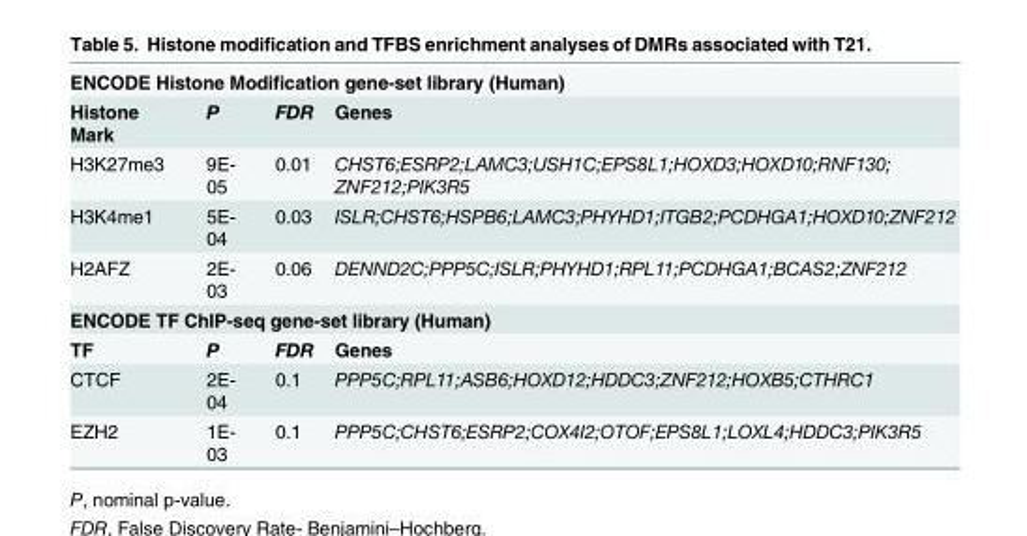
<table><tbody><tr><td colspan="4">ENCODE Histone Modification gene-set library (Human)</td></tr><tr><td>Histone Mark</td><td>P</td><td>FDR</td><td>Genes</td></tr><tr><td>H3K27me3</td><td>9E- 05</td><td>0.01</td><td>CHST6;ESRP2;LAMC3;USH1C;EPS8L1;HOXD3;HOXD10;RNF130; ZNF212;PIK3R5</td></tr><tr><td>H3K4me1</td><td>5E- 04</td><td>0.03</td><td>ISLR;CHST6;HSPB6;LAMC3;PHYHD1;ITGB2;PCDHGA1;HOXD10;ZNF212</td></tr><tr><td>H2AFZ</td><td>2E- 03</td><td>0.06</td><td>DENND2C;PPP5C;ISLR;PHYHD1;RPL11;PCDHGA1;BCAS2;ZNF212</td></tr><tr><td colspan="4">ENCODE TF ChIP-seq gene-set library (Human)</td></tr><tr><td>TF</td><td>P</td><td>FDR</td><td>Genes</td></tr><tr><td>CTCF</td><td>2E- 04</td><td>0.1</td><td>PPP5C;RPL11;ASB6;HOXD12;HDDC3;ZNF212;HOXB5;CTHRC1</td></tr><tr><td>EZH2</td><td>1E- 03</td><td>0.1</td><td>PPP5C;CHST6;ESRP2;COX4I2;OTOF;EPS8L1;LOXL4;HDDC3;PIK3R5</td></tr></tbody></table>